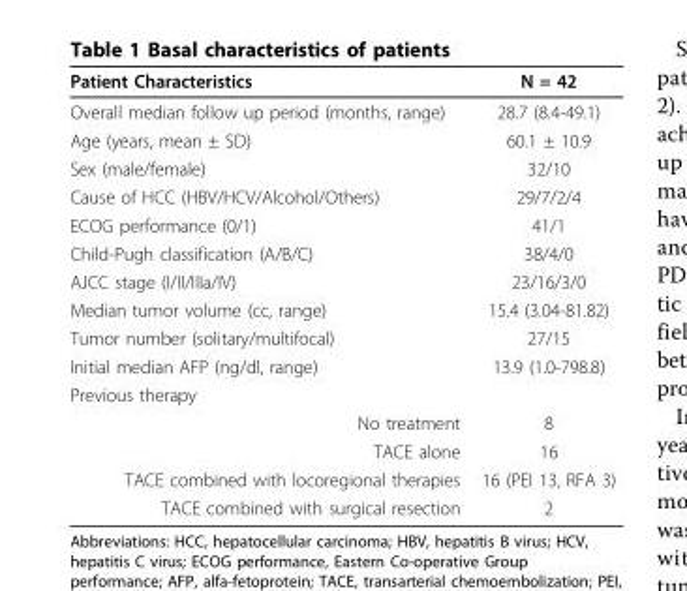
<table><thead><tr><td>Patient Characteristics</td><td>N = 42</td></tr></thead><tbody><tr><td>Overall median follow up period (months, range)</td><td>28.7 (8.4-49.1)</td></tr><tr><td>Age (years, mean ± SD)</td><td>60.1 ± 10.9</td></tr><tr><td>Sex (male/female)</td><td>32/10</td></tr><tr><td>Cause of HCC (HBV/HCV/Alcohol/Others)</td><td>29/7/2/4</td></tr><tr><td>ECOG performance (0/1)</td><td>41/1</td></tr><tr><td>Child-Pugh classification (A/B/C)</td><td>38/4/0</td></tr><tr><td>AJCC stage (I/II/IIIa/IV)</td><td>23/16/3/0</td></tr><tr><td>Median tumor volume (cc, range)</td><td>15.4 (3.04-81.82)</td></tr><tr><td>Tumor number (solitary/multifocal)</td><td>27/15</td></tr><tr><td>Initial median AFP (ng/dl, range)</td><td>13.9 (1.0-798.8)</td></tr><tr><td colspan="2">Previous therapy</td></tr><tr><td>No treatment</td><td>8</td></tr><tr><td>TACE alone</td><td>16</td></tr><tr><td>TACE combined with locoregional therapies</td><td>16 (PEI 13, RFA 3)</td></tr><tr><td>TACE combined with surgical resection</td><td>2</td></tr></tbody></table>